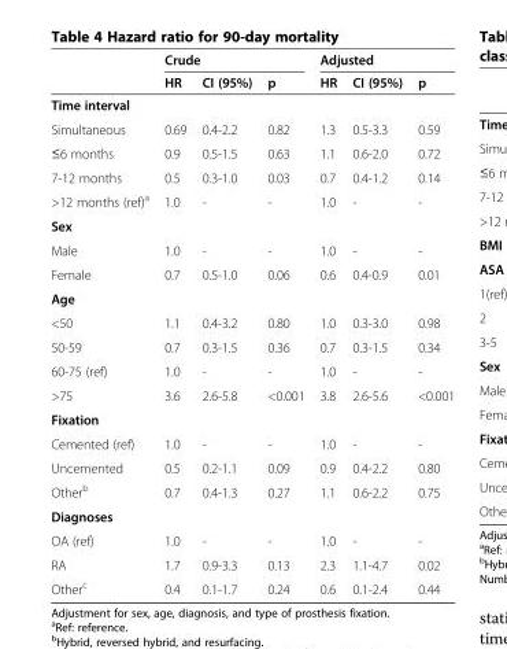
<table><thead><tr><td rowspan="2"></td><td colspan="3">Crude</td><td colspan="3">Adjusted</td></tr><tr><td>HR</td><td>CI (95%)</td><td>p</td><td>HR</td><td>CI (95%)</td><td>p</td></tr></thead><tbody><tr><td colspan="7">Time interval</td></tr><tr><td>Simultaneous</td><td>0.69</td><td>0.4-2.2</td><td>0.82</td><td>1.3</td><td>0.5-3.3</td><td>0.59</td></tr><tr><td>≤6 months</td><td>0.9</td><td>0.5-1.5</td><td>0.63</td><td>1.1</td><td>0.6-2.0</td><td>0.72</td></tr><tr><td>7-12 months</td><td>0.5</td><td>0.3-1.0</td><td>0.03</td><td>0.7</td><td>0.4-1.2</td><td>0.14</td></tr><tr><td>&gt;12 months (ref)<sup>a</sup></td><td>1.0</td><td>-</td><td>-</td><td>1.0</td><td>-</td><td>-</td></tr><tr><td colspan="7">Sex</td></tr><tr><td>Male</td><td>1.0</td><td>-</td><td>-</td><td>1.0</td><td>-</td><td>-</td></tr><tr><td>Female</td><td>0.7</td><td>0.5-1.0</td><td>0.06</td><td>0.6</td><td>0.4-0.9</td><td>0.01</td></tr><tr><td colspan="7">Age</td></tr><tr><td>&lt;50</td><td>1.1</td><td>0.4-3.2</td><td>0.80</td><td>1.0</td><td>0.3-3.0</td><td>0.98</td></tr><tr><td>50-59</td><td>0.7</td><td>0.3-1.5</td><td>0.36</td><td>0.7</td><td>0.3-1.5</td><td>0.34</td></tr><tr><td>60-75 (ref)</td><td>1.0</td><td>-</td><td>-</td><td>1.0</td><td>-</td><td>-</td></tr><tr><td>&gt;75</td><td>3.6</td><td>2.6-5.8</td><td>&lt;0.001</td><td>3.8</td><td>2.6-5.6</td><td>&lt;0.001</td></tr><tr><td colspan="7">Fixation</td></tr><tr><td>Cemented (ref)</td><td>1.0</td><td>-</td><td>-</td><td>1.0</td><td>-</td><td>-</td></tr><tr><td>Uncemented</td><td>0.5</td><td>0.2-1.1</td><td>0.09</td><td>0.9</td><td>0.4-2.2</td><td>0.80</td></tr><tr><td>Other<sup>b</sup></td><td>0.7</td><td>0.4-1.3</td><td>0.27</td><td>1.1</td><td>0.6-2.2</td><td>0.75</td></tr><tr><td colspan="7">Diagnoses</td></tr><tr><td>OA (ref)</td><td>1.0</td><td>-</td><td>-</td><td>1.0</td><td>-</td><td>-</td></tr><tr><td>RA</td><td>1.7</td><td>0.9-3.3</td><td>0.13</td><td>2.3</td><td>1.1-4.7</td><td>0.02</td></tr><tr><td>Other<sup>c</sup></td><td>0.4</td><td>0.1-1.7</td><td>0.24</td><td>0.6</td><td>0.1-2.4</td><td>0.44</td></tr></tbody></table>